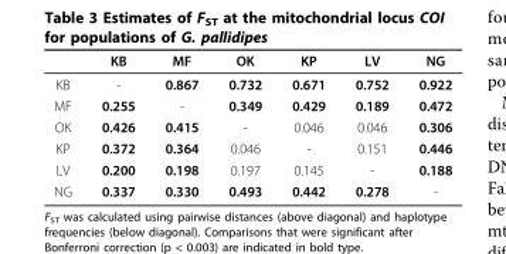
<table><thead><tr><td></td><td>KB</td><td>MF</td><td>OK</td><td>KP</td><td>LV</td><td>NG</td></tr></thead><tbody><tr><td>KB</td><td>-</td><td>0.867</td><td>0.732</td><td>0.671</td><td>0.752</td><td>0.922</td></tr><tr><td>MF</td><td>0.255</td><td>-</td><td>0.349</td><td>0.429</td><td>0.189</td><td>0.472</td></tr><tr><td>OK</td><td>0.426</td><td>0.415</td><td>-</td><td>0.046</td><td>0.046</td><td>0.306</td></tr><tr><td>KP</td><td>0.372</td><td>0.364</td><td>0.046</td><td>-</td><td>0.151</td><td>0.446</td></tr><tr><td>LV</td><td>0.200</td><td>0.198</td><td>0.197</td><td>0.145</td><td>-</td><td>0.188</td></tr><tr><td>NG</td><td>0.337</td><td>0.330</td><td>0.493</td><td>0.442</td><td>0.278</td><td>-</td></tr></tbody></table>